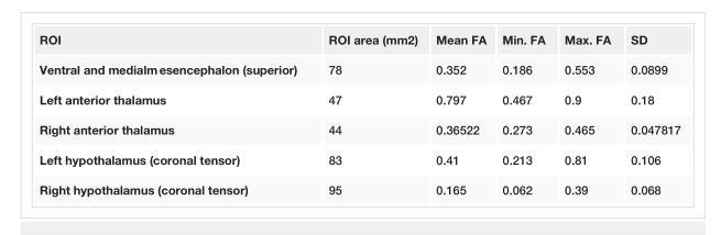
<table><tbody><tr><td>ROI</td><td>ROI area (mm2)</td><td>Mean FA</td><td>Min. FA</td><td>Max. FA</td><td>SD</td></tr><tr><td>Ventral and medialm esencephalon (superior)</td><td>78</td><td>0.352</td><td>0.186</td><td>0.553</td><td>0.0899</td></tr><tr><td>Left anterior thalamus</td><td>47</td><td>0.797</td><td>0.467</td><td>0.9</td><td>0.18</td></tr><tr><td>Right anterior thalamus</td><td>44</td><td>0.36522</td><td>0.273</td><td>0.465</td><td>0.047817</td></tr><tr><td>Left hypothalamus (coronal tensor)</td><td>83</td><td>0.41</td><td>0.213</td><td>0.81</td><td>0.106</td></tr><tr><td>Right hypothalamus (coronal tensor)</td><td>95</td><td>0.165</td><td>0.062</td><td>0.39</td><td>0.068</td></tr></tbody></table>